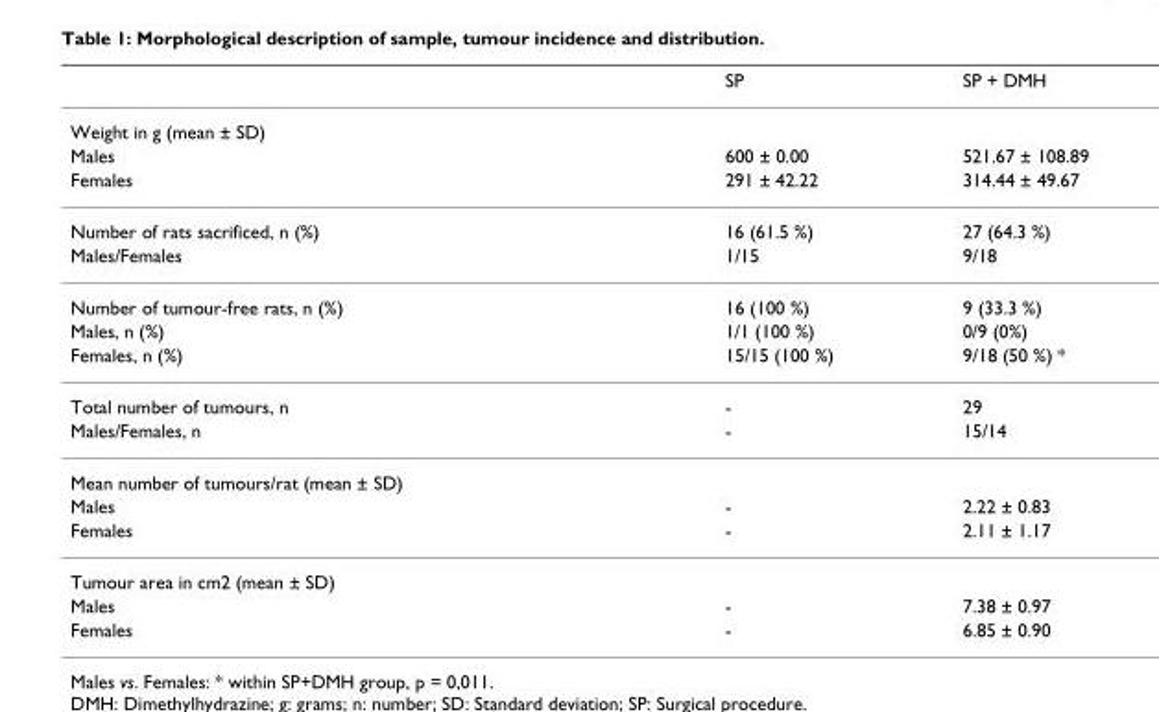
<table><thead><tr><td></td><td>SP</td><td>SP + DMH</td></tr></thead><tbody><tr><td colspan="3">Weight in g (mean ± SD)</td></tr><tr><td>Males</td><td>600 ± 0.00</td><td>521.67 ± 108.89</td></tr><tr><td>Females</td><td>291 ± 42.22</td><td>314.44 ± 49.67</td></tr><tr><td>Number of rats sacrificed, n (%)</td><td>16 (61.5 %)</td><td>27 (64.3 %)</td></tr><tr><td>Males/Females</td><td>1/15</td><td>9/18</td></tr><tr><td>Number of tumour-free rats, n (%)</td><td>16 (100 %)</td><td>9 (33.3 %)</td></tr><tr><td>Males, n (%)</td><td>1/1 (100 %)</td><td>0/9 (0%)</td></tr><tr><td>Females, n (%)</td><td>15/15 (100 %)</td><td>9/18 (50 %) *</td></tr><tr><td>Total number of tumours, n</td><td>-</td><td>29</td></tr><tr><td>Males/Females, n</td><td>-</td><td>15/14</td></tr><tr><td colspan="3">Mean number of tumours/rat (mean ± SD)</td></tr><tr><td>Males</td><td>-</td><td>2.22 ± 0.83</td></tr><tr><td>Females</td><td>-</td><td>2.11 ± 1.17</td></tr><tr><td colspan="3">Tumour area in cm2 (mean ± SD)</td></tr><tr><td>Males</td><td>-</td><td>7.38 ± 0.97</td></tr><tr><td>Females</td><td>-</td><td>6.85 ± 0.90</td></tr></tbody></table>